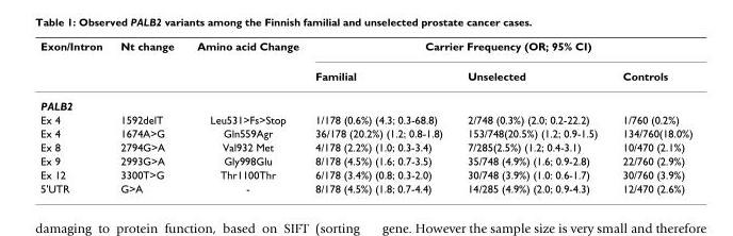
<table><thead><tr><td rowspan="2">Exon/Intron</td><td rowspan="2">Nt change</td><td rowspan="2">Amino acid Change</td><td colspan="3">Carrier Frequency (OR; 95% CI)</td></tr><tr><td>Familial</td><td>Unselected</td><td>Controls</td></tr></thead><tbody><tr><td colspan="6">PALB2</td></tr><tr><td>Ex 4</td><td>1592delT</td><td>Leu531&gt;Fs&gt;Stop</td><td>1/178 (0.6%) (4.3; 0.3-68.8)</td><td>2/748 (0.3%) (2.0; 0.2-22.2)</td><td>1/760 (0.2%)</td></tr><tr><td>Ex 4</td><td>1674A&gt;G</td><td>Gln559Agr</td><td>36/178 (20.2%) (1.2; 0.8-1.8)</td><td>153/748(20.5%) (1.2; 0.9-1.5)</td><td>134/760(18.0%)</td></tr><tr><td>Ex 8</td><td>2794G&gt;A</td><td>Val932 Met</td><td>4/178 (2.2%) (1.0; 0.3-3.4)</td><td>7/285(2.5%) (1.2; 0.4-3.1)</td><td>10/470 (2.1%)</td></tr><tr><td>Ex 9</td><td>2993G&gt;A</td><td>Gly998Glu</td><td>8/178 (4.5%) (1.6; 0.7-3.5)</td><td>35/748 (4.9%) (1.6; 0.9-2.8)</td><td>22/760 (2.9%)</td></tr><tr><td>Ex 12</td><td>3300T&gt;G</td><td>Thr1100Thr</td><td>6/178 (3.4%) (0.8; 0.3-2.0)</td><td>30/748 (3.9%) (1.0: 0.6-1.7)</td><td>30/760 (3.9%)</td></tr><tr><td>5&#x27;UTR</td><td>G&gt;A</td><td>-</td><td>8/178 (4.5%) (1.8; 0.7-4.4)</td><td>14/285 (4.9%) (2.0; 0.9-4.3)</td><td>12/470 (2.6%)</td></tr></tbody></table>